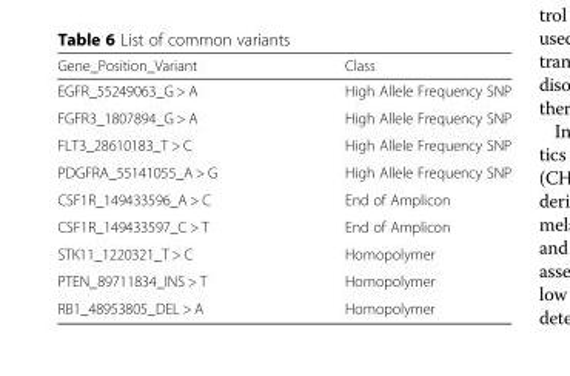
<table><thead><tr><td>Gene_Position_Variant</td><td>Class</td></tr></thead><tbody><tr><td>EGFR_55249063_G &gt; A</td><td>High Allele Frequency SNP</td></tr><tr><td>FGFR3_1807894_G &gt; A</td><td>High Allele Frequency SNP</td></tr><tr><td>FLT3_28610183_T &gt; C</td><td>High Allele Frequency SNP</td></tr><tr><td>PDGFRA_55141055_A &gt; G</td><td>High Allele Frequency SNP</td></tr><tr><td>CSF1R_149433596_A &gt; C</td><td>End of Amplicon</td></tr><tr><td>CSF1R_149433597_C &gt; T</td><td>End of Amplicon</td></tr><tr><td>STK11_1220321_T &gt; C</td><td>Homopolymer</td></tr><tr><td>PTEN_89711834_INS &gt; T</td><td>Homopolymer</td></tr><tr><td>RB1_48953805_DEL &gt; A</td><td>Homopolymer</td></tr></tbody></table>